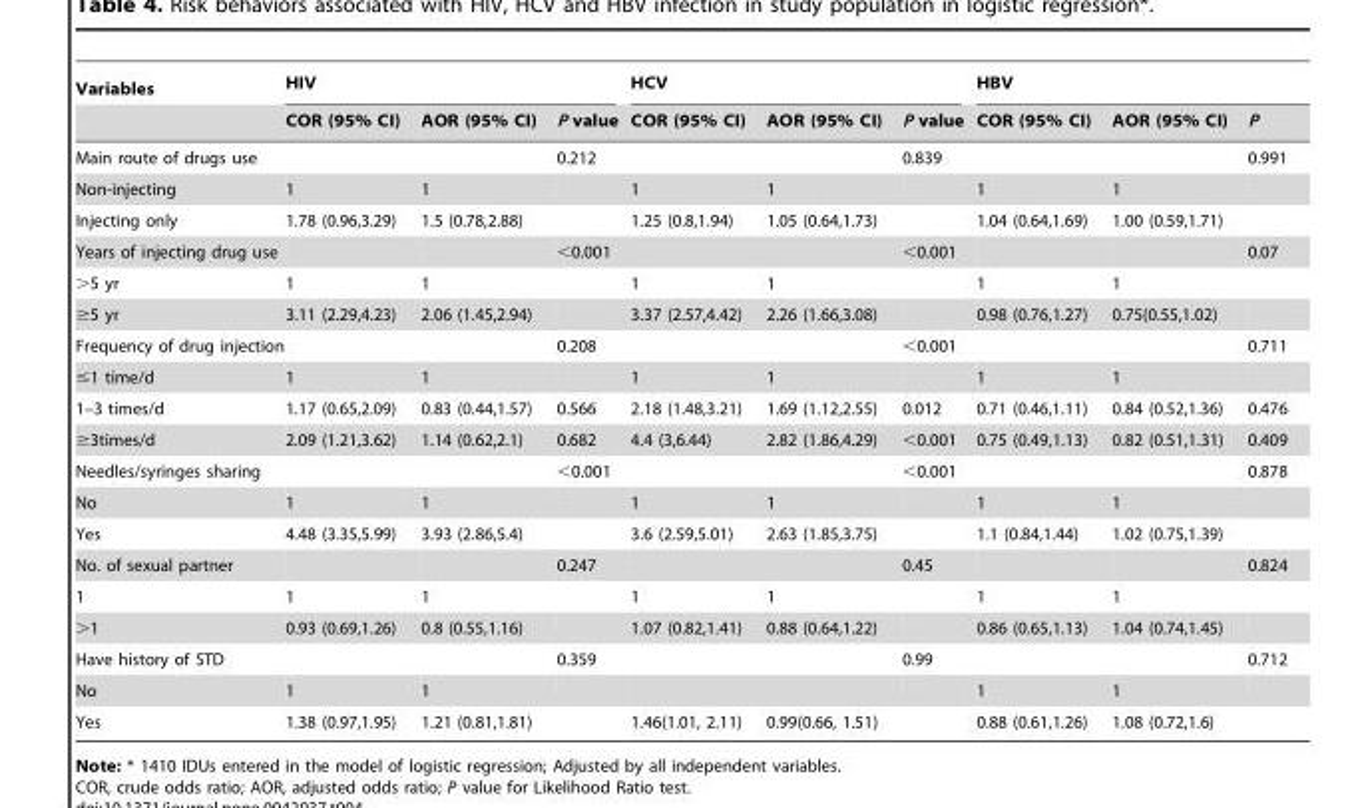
<table><thead><tr><td rowspan="2">Variables</td><td colspan="3">HIV</td><td colspan="3">HCV</td><td colspan="3">HBV</td></tr><tr><td>COR (95% CI)</td><td>AOR (95% CI)</td><td>P value</td><td>COR (95% CI)</td><td>AOR (95% CI)</td><td>P value</td><td>COR (95% CI)</td><td>AOR (95% CI)</td><td>P</td></tr></thead><tbody><tr><td>Main route of drugs use</td><td></td><td></td><td>0.212</td><td></td><td></td><td>0.839</td><td></td><td></td><td>0.991</td></tr><tr><td>Non-injecting</td><td>1</td><td>1</td><td></td><td>1</td><td>1</td><td></td><td>1</td><td>1</td><td></td></tr><tr><td>Injecting only</td><td>1.78 (0.96,3.29)</td><td>1.5 (0.78,2.88)</td><td></td><td>1.25 (0.8,1.94)</td><td>1.05 (0.64,1.73)</td><td></td><td>1.04 (0.64,1.69)</td><td>1.00 (0.59,1.71)</td><td></td></tr><tr><td>Years of injecting drug use</td><td></td><td></td><td>&lt;0.001</td><td></td><td></td><td>&lt;0.001</td><td></td><td></td><td>0.07</td></tr><tr><td>&gt;5 yr</td><td>1</td><td>1</td><td></td><td>1</td><td>1</td><td></td><td>1</td><td>1</td><td></td></tr><tr><td>≥5 yr</td><td>3.11 (2.29,4.23)</td><td>2.06 (1.45,2.94)</td><td></td><td>3.37 (2.57,4.42)</td><td>2.26 (1.66,3.08)</td><td></td><td>0.98 (0.76,1.27)</td><td>0.75(0.55,1.02)</td><td></td></tr><tr><td>Frequency of drug injection</td><td></td><td></td><td>0.208</td><td></td><td></td><td>&lt;0.001</td><td></td><td></td><td>0.711</td></tr><tr><td>≤1 time/d</td><td>1</td><td>1</td><td></td><td>1</td><td>1</td><td></td><td>1</td><td>1</td><td></td></tr><tr><td>1–3 times/d</td><td>1.17 (0.65,2.09)</td><td>0.83 (0.44,1.57)</td><td>0.566</td><td>2.18 (1.48,3.21)</td><td>1.69 (1.12,2.55)</td><td>0.012</td><td>0.71 (0.46,1.11)</td><td>0.84 (0.52,1.36)</td><td>0.476</td></tr><tr><td>≥3times/d</td><td>2.09 (1.21,3.62)</td><td>1.14 (0.62,2.1)</td><td>0.682</td><td>4.4 (3,6.44)</td><td>2.82 (1.86,4.29)</td><td>&lt;0.001</td><td>0.75 (0.49,1.13)</td><td>0.82 (0.51,1.31)</td><td>0.409</td></tr><tr><td>Needles/syringes sharing</td><td></td><td></td><td>&lt;0.001</td><td></td><td></td><td>&lt;0.001</td><td></td><td></td><td>0.878</td></tr><tr><td>No</td><td>1</td><td>1</td><td></td><td>1</td><td>1</td><td></td><td>1</td><td>1</td><td></td></tr><tr><td>Yes</td><td>4.48 (3.35,5.99)</td><td>3.93 (2.86,5.4)</td><td></td><td>3.6 (2.59,5.01)</td><td>2.63 (1.85,3.75)</td><td></td><td>1.1 (0.84,1.44)</td><td>1.02 (0.75,1.39)</td><td></td></tr><tr><td>No. of sexual partner</td><td></td><td></td><td>0.247</td><td></td><td></td><td>0.45</td><td></td><td></td><td>0.824</td></tr><tr><td>1</td><td>1</td><td>1</td><td></td><td>1</td><td>1</td><td></td><td>1</td><td>1</td><td></td></tr><tr><td>&gt;1</td><td>0.93 (0.69,1.26)</td><td>0.8 (0.55,1.16)</td><td></td><td>1.07 (0.82,1.41)</td><td>0.88 (0.64,1.22)</td><td></td><td>0.86 (0.65,1.13)</td><td>1.04 (0.74,1.45)</td><td></td></tr><tr><td>Have history of STD</td><td></td><td></td><td>0.359</td><td></td><td></td><td>0.99</td><td></td><td></td><td>0.712</td></tr><tr><td>No</td><td>1</td><td>1</td><td></td><td></td><td></td><td></td><td>1</td><td>1</td><td></td></tr><tr><td>Yes</td><td>1.38 (0.97,1.95)</td><td>1.21 (0.81,1.81)</td><td></td><td>1.46(1.01, 2.11)</td><td>0.99(0.66, 1.51)</td><td></td><td>0.88 (0.61,1.26)</td><td>1.08 (0.72,1.6)</td><td></td></tr></tbody></table>